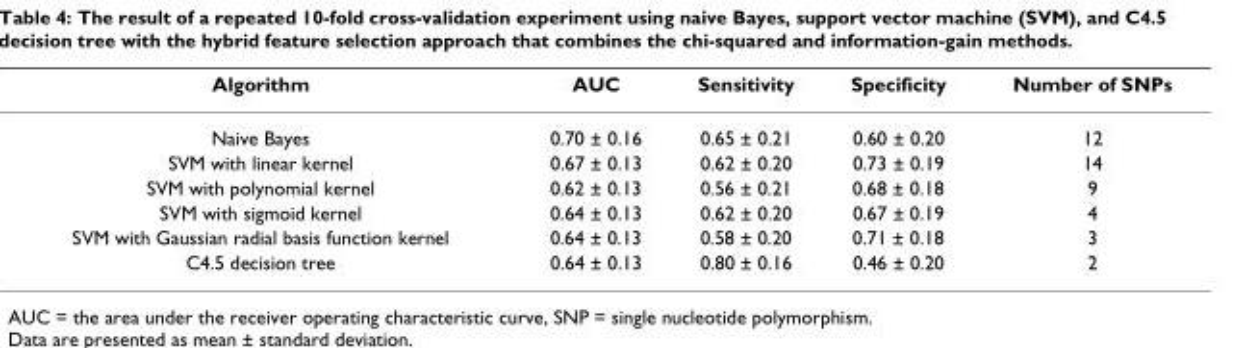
<table><thead><tr><td>Algorithm</td><td>AUC</td><td>Sensitivity</td><td>Specificity</td><td>Number of SNPs</td></tr></thead><tbody><tr><td>Naive Bayes</td><td>0.70 ± 0.16</td><td>0.65 ± 0.21</td><td>0.60 ± 0.20</td><td>12</td></tr><tr><td>SVM with linear kernel</td><td>0.67 ± 0.13</td><td>0.62 ± 0.20</td><td>0.73 ± 0.19</td><td>14</td></tr><tr><td>SVM with polynomial kernel</td><td>0.62 ± 0.13</td><td>0.56 ± 0.21</td><td>0.68 ± 0.18</td><td>9</td></tr><tr><td>SVM with sigmoid kernel</td><td>0.64 ± 0.13</td><td>0.62 ± 0.20</td><td>0.67 ± 0.19</td><td>4</td></tr><tr><td>SVM with Gaussian radial basis function kernel</td><td>0.64 ± 0.13</td><td>0.58 ± 0.20</td><td>0.71 ± 0.18</td><td>3</td></tr><tr><td>C4.5 decision tree</td><td>0.64 ± 0.13</td><td>0.80 ± 0.16</td><td>0.46 ± 0.20</td><td>2</td></tr></tbody></table>